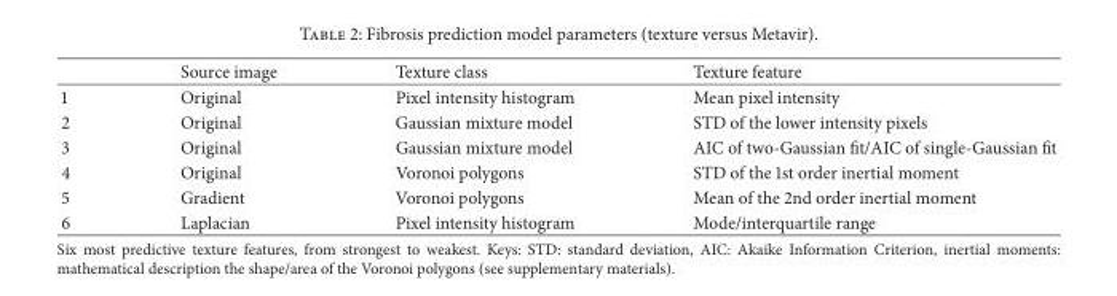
<table><thead><tr><td></td><td>Source image</td><td>Texture class</td><td>Texture feature</td></tr></thead><tbody><tr><td>1</td><td>Original</td><td>Pixel intensity histogram</td><td>Mean pixel intensity</td></tr><tr><td>2</td><td>Original</td><td>Gaussian mixture model</td><td>STD of the lower intensity pixels</td></tr><tr><td>3</td><td>Original</td><td>Gaussian mixture model</td><td>AIC of two-Gaussian fit/AIC of single-Gaussian fit</td></tr><tr><td>4</td><td>Original</td><td>Voronoi polygons</td><td>STD of the 1st order inertial moment</td></tr><tr><td>5</td><td>Gradient</td><td>Voronoi polygons</td><td>Mean of the 2nd order inertial moment</td></tr><tr><td>6</td><td>Laplacian</td><td>Pixel intensity histogram</td><td>Mode/interquartile range</td></tr></tbody></table>